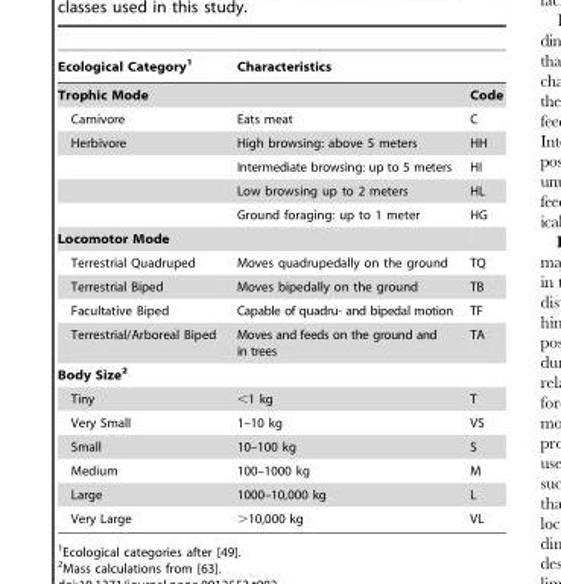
<table><thead><tr><td rowspan="2">Ecological Category<sup>1</sup> Trophic Mode</td><td colspan="2">Characteristics</td></tr><tr><td></td><td>Code</td></tr></thead><tbody><tr><td>Carnivore</td><td>Eats meat</td><td>C</td></tr><tr><td rowspan="4">Herbivore</td><td>High browsing: above 5 meters</td><td>HH</td></tr><tr><td>Intermediate browsing: up to 5 meters</td><td>HI</td></tr><tr><td>Low browsing up to 2 meters</td><td>HL</td></tr><tr><td>Ground foraging: up to 1 meter</td><td>HG</td></tr><tr><td colspan="3">Locomotor Mode</td></tr><tr><td>Terrestrial Quadruped</td><td>Moves quadrupedally on the ground</td><td>TQ</td></tr><tr><td>Terrestrial Biped</td><td>Moves bipedally on the ground</td><td>TB</td></tr><tr><td>Facultative Biped</td><td>Capable of quadru- and bipedal motion</td><td>TF</td></tr><tr><td>Terrestrial/Arboreal Biped</td><td>Moves and feeds on the ground and in trees</td><td>TA</td></tr><tr><td colspan="3">Body Size2</td></tr><tr><td>Tiny</td><td>&lt;1 kg</td><td>T</td></tr><tr><td>Very Small</td><td>1–10 kg</td><td>VS</td></tr><tr><td>Small</td><td>10–100 kg</td><td>S</td></tr><tr><td>Medium</td><td>100–1000 kg</td><td>M</td></tr><tr><td>Large</td><td>1000–10,000 kg</td><td>L</td></tr><tr><td>Very Large</td><td>&gt;10,000 kg</td><td>VL</td></tr></tbody></table>